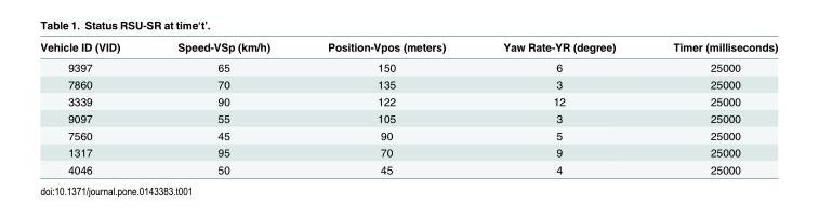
<table><thead><tr><td>Vehicle ID (VID)</td><td>Speed-VSp (km/h)</td><td>Position-Vpos (meters)</td><td>Yaw Rate-YR (degree)</td><td>Timer (milliseconds)</td></tr></thead><tbody><tr><td>9397</td><td>65</td><td>150</td><td>6</td><td>25000</td></tr><tr><td>7860</td><td>70</td><td>135</td><td>3</td><td>25000</td></tr><tr><td>3339</td><td>90</td><td>122</td><td>12</td><td>25000</td></tr><tr><td>9097</td><td>55</td><td>105</td><td>3</td><td>25000</td></tr><tr><td>7560</td><td>45</td><td>90</td><td>5</td><td>25000</td></tr><tr><td>1317</td><td>95</td><td>70</td><td>9</td><td>25000</td></tr><tr><td>4046</td><td>50</td><td>45</td><td>4</td><td>25000</td></tr></tbody></table>